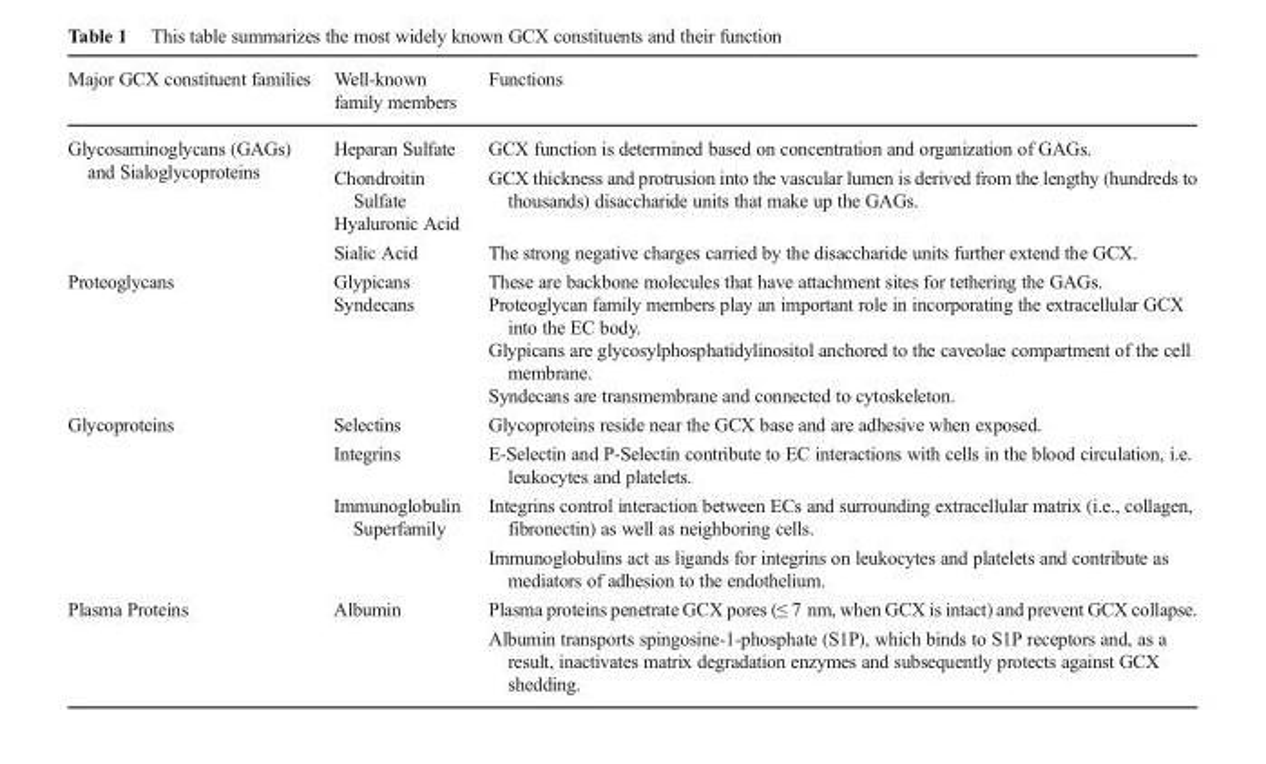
<table><thead><tr><td>Major GCX constituent families</td><td>Well-known family members</td><td>Functions</td></tr></thead><tbody><tr><td rowspan="4">Glycosaminoglycans (GAGs) and Sialoglycoproteins</td><td>Heparan Sulfate</td><td>GCX function is determined based on concentration and organization of GAGs.</td></tr><tr><td>Chondroitin Sulfate</td><td rowspan="2">GCX thickness and protrusion into the vascular lumen is derived from the lengthy (hundreds to thousands) disaccharide units that make up the GAGs.</td></tr><tr><td>Hyaluronic Acid</td></tr><tr><td>Sialic Acid</td><td>The strong negative charges carried by the disaccharide units further extend the GCX.</td></tr><tr><td>Proteoglycans</td><td>Glypicans Syndecans</td><td>These are backbone molecules that have attachment sites for tethering the GAGs. Proteoglycan family members play an important role in incorporating the extracellular GCX into the EC body. Glypicans are glycosylphosphatidylinositol anchored to the caveolae compartment of the cell membrane. Syndecans are transmembrane and connected to cytoskeleton.</td></tr><tr><td rowspan="4">Glycoproteins</td><td>Selectins</td><td>Glycoproteins reside near the GCX base and are adhesive when exposed.</td></tr><tr><td>Integrins</td><td>E-Selectin and P-Selectin contribute to EC interactions with cells in the blood circulation, i.e. leukocytes and platelets.</td></tr><tr><td rowspan="2">Immunoglobulin Superfamily</td><td>Integrins control interaction between ECs and surrounding extracellular matrix (i.e., collagen, fibronectin) as well as neighboring cells.</td></tr><tr><td>Immunoglobulins act as ligands for integrins on leukocytes and platelets and contribute as mediators of adhesion to the endothelium.</td></tr><tr><td rowspan="2">Plasma Proteins</td><td rowspan="2">Albumin</td><td>Plasma proteins penetrate GCX pores (≤ 7 nm, when GCX is intact) and prevent GCX collapse.</td></tr><tr><td>Albumin transports spingosine-1-phosphate (S1P), which binds to S1P receptors and, as a result, inactivates matrix degradation enzymes and subsequently protects against GCX shedding.</td></tr></tbody></table>